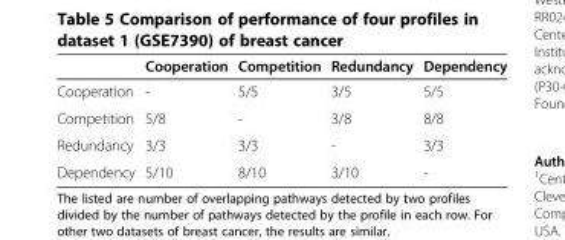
<table><thead><tr><td></td><td>Cooperation</td><td>Competition</td><td>Redundancy</td><td>Dependency</td></tr></thead><tbody><tr><td>Cooperation</td><td>-</td><td>5/5</td><td>3/5</td><td>5/5</td></tr><tr><td>Competition</td><td>5/8</td><td>-</td><td>3/8</td><td>8/8</td></tr><tr><td>Redundancy</td><td>3/3</td><td>3/3</td><td>-</td><td>3/3</td></tr><tr><td>Dependency</td><td>5/10</td><td>8/10</td><td>3/10</td><td>-</td></tr></tbody></table>